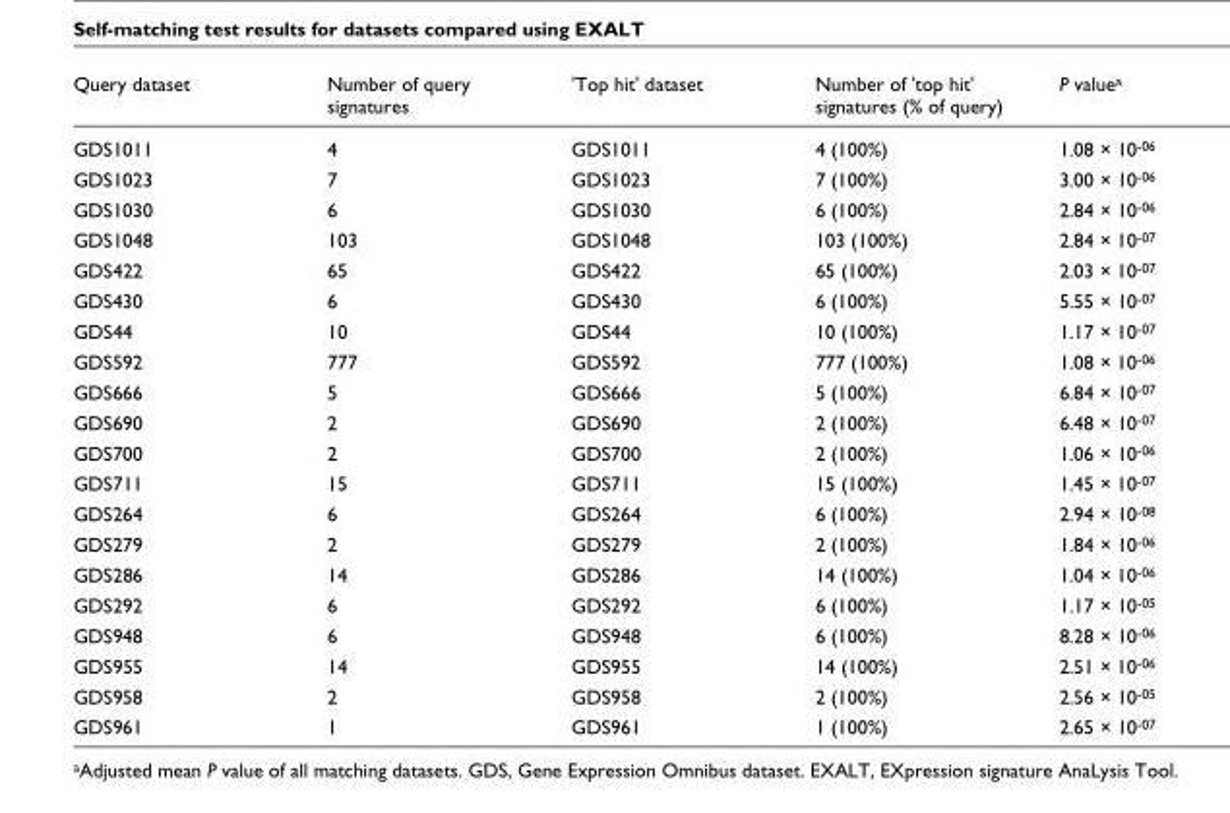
<table><thead><tr><td>Query dataset</td><td>Number of query signatures</td><td>&#x27;Top hit&#x27; dataset</td><td>Number of &#x27;top hit&#x27; signatures (% of query)</td><td>P value<sup>a</sup></td></tr></thead><tbody><tr><td>GDS1011</td><td>4</td><td>GDS1011</td><td>4 (100%)</td><td>1.08 × 10<sup>-06</sup></td></tr><tr><td>GDS1023</td><td>7</td><td>GDS1023</td><td>7 (100%)</td><td>3.00 × 10<sup>-06</sup></td></tr><tr><td>GDS1030</td><td>6</td><td>GDS1030</td><td>6 (100%)</td><td>2.84 × 10<sup>-06</sup></td></tr><tr><td>GDS1048</td><td>103</td><td>GDS1048</td><td>103 (100%)</td><td>2.84 × 10<sup>-07</sup></td></tr><tr><td>GDS422</td><td>65</td><td>GDS422</td><td>65 (100%)</td><td>2.03 × 10<sup>-07</sup></td></tr><tr><td>GDS430</td><td>6</td><td>GDS430</td><td>6 (100%)</td><td>5.55 × 10<sup>-07</sup></td></tr><tr><td>GDS44</td><td>10</td><td>GDS44</td><td>10 (100%)</td><td>1.17 × 10<sup>-07</sup></td></tr><tr><td>GDS592</td><td>777</td><td>GDS592</td><td>777 (100%)</td><td>1.08 × 10<sup>-06</sup></td></tr><tr><td>GDS666</td><td>5</td><td>GDS666</td><td>5 (100%)</td><td>6.84 × 10<sup>-07</sup></td></tr><tr><td>GDS690</td><td>2</td><td>GDS690</td><td>2 (100%)</td><td>6.48 × 10<sup>-07</sup></td></tr><tr><td>GDS700</td><td>2</td><td>GDS700</td><td>2 (100%)</td><td>1.06 × 10<sup>-06</sup></td></tr><tr><td>GDS711</td><td>15</td><td>GDS711</td><td>15 (100%)</td><td>1.45 × 10<sup>-07</sup></td></tr><tr><td>GDS264</td><td>6</td><td>GDS264</td><td>6 (100%)</td><td>2.94 × 10<sup>-08</sup></td></tr><tr><td>GDS279</td><td>2</td><td>GDS279</td><td>2 (100%)</td><td>1.84 × 10<sup>-06</sup></td></tr><tr><td>GDS286</td><td>14</td><td>GDS286</td><td>14 (100%)</td><td>1.04 × 10<sup>-06</sup></td></tr><tr><td>GDS292</td><td>6</td><td>GDS292</td><td>6 (100%)</td><td>1.17 × 10<sup>-05</sup></td></tr><tr><td>GDS948</td><td>6</td><td>GDS948</td><td>6 (100%)</td><td>8.28 × 10<sup>-06</sup></td></tr><tr><td>GDS955</td><td>14</td><td>GDS955</td><td>14 (100%)</td><td>2.51 × 10<sup>-06</sup></td></tr><tr><td>GDS958</td><td>2</td><td>GDS958</td><td>2 (100%)</td><td>2.56 × 10<sup>-05</sup></td></tr><tr><td>GDS961</td><td>1</td><td>GDS961</td><td>1 (100%)</td><td>2.65 × 10<sup>-07</sup></td></tr></tbody></table>